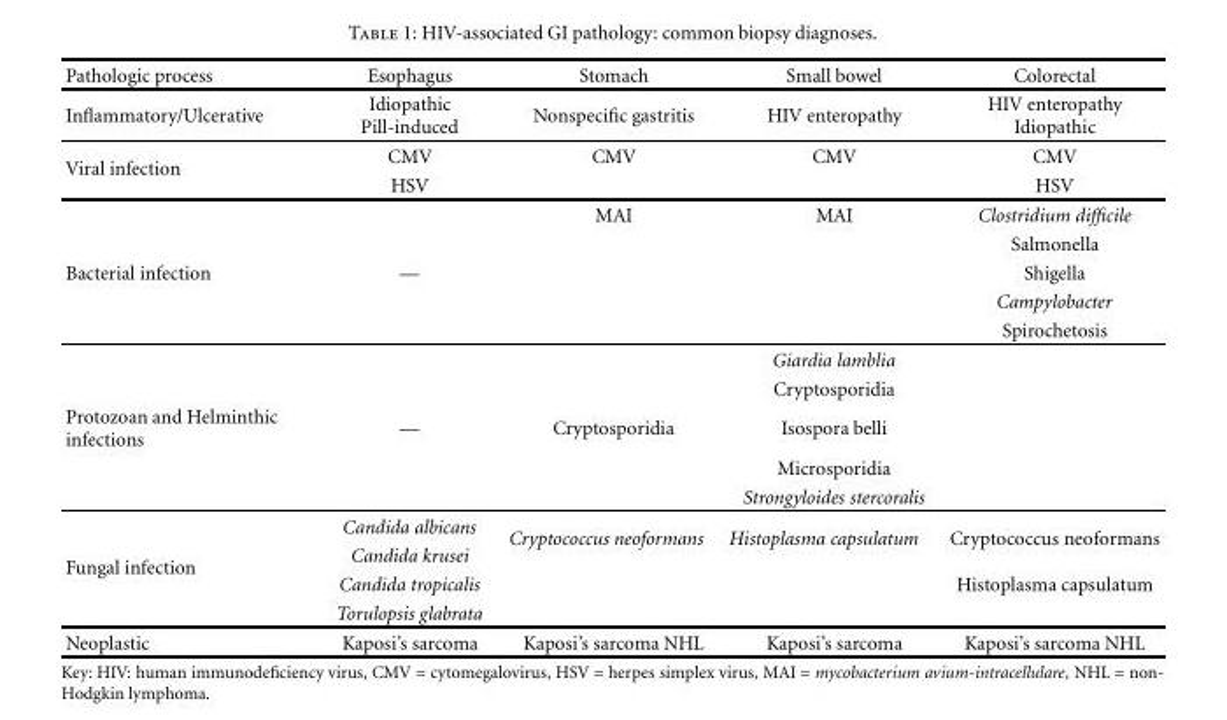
<table><thead><tr><td>Pathologic process</td><td>Esophagus</td><td>Stomach</td><td>Small bowel</td><td>Colorectal</td></tr></thead><tbody><tr><td>Inflammatory/Ulcerative</td><td>Idiopathic Pill-induced</td><td>Nonspecific gastritis</td><td>HIV enteropathy</td><td>HIV enteropathy Idiopathic</td></tr><tr><td rowspan="4">Viral infection</td><td>CMV</td><td>CMV</td><td>CMV</td><td>CMV</td></tr><tr><td>HSV</td><td></td><td></td><td>HSV</td></tr><tr><td></td><td>MAI</td><td>MAI</td><td>Clostridium difficile</td></tr><tr><td></td><td></td><td></td><td>Salmonella</td></tr><tr><td rowspan="5">Bacterial infection</td><td>—</td><td></td><td></td><td>Shigella</td></tr><tr><td></td><td></td><td></td><td>Campylobacter</td></tr><tr><td></td><td></td><td></td><td>Spirochetosis</td></tr><tr><td></td><td></td><td>Giardia lamblia</td><td></td></tr><tr><td></td><td></td><td>Cryptosporidia</td><td></td></tr><tr><td rowspan="4">Protozoan and Helminthic infections</td><td>—</td><td>Cryptosporidia</td><td>Isospora belli</td><td></td></tr><tr><td></td><td></td><td>Microsporidia</td><td></td></tr><tr><td></td><td></td><td>Strongyloides stercoralis</td><td></td></tr><tr><td>Candida albicans</td><td rowspan="2">Cryptococcus neoformans</td><td rowspan="2">Histoplasma capsulatum</td><td rowspan="2">Cryptococcus neoformans</td></tr><tr><td rowspan="3">Fungal infection</td><td>Candida krusei</td></tr><tr><td>Candida tropicalis</td><td></td><td></td><td>Histoplasma capsulatum</td></tr><tr><td>Torulopsis glabrata</td><td></td><td></td><td></td></tr><tr><td>Neoplastic</td><td>Kaposi’s sarcoma</td><td>Kaposi’s sarcoma NHL</td><td>Kaposi’s sarcoma</td><td>Kaposi’s sarcoma NHL</td></tr></tbody></table>